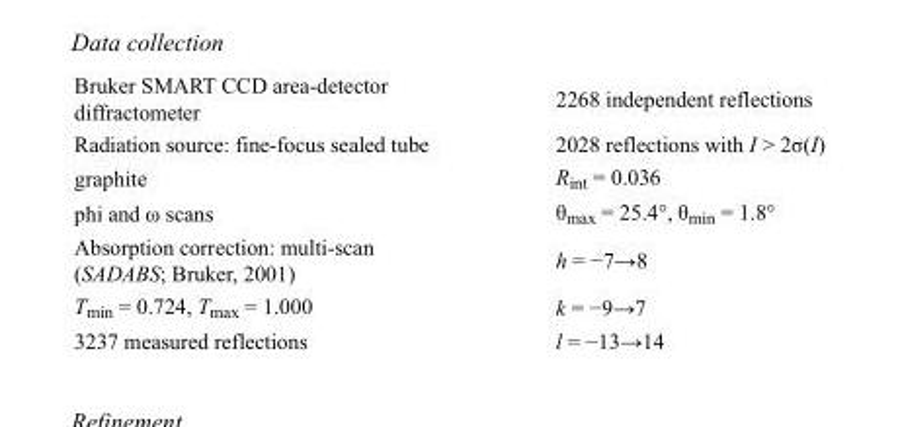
<table><tbody><tr><td>Bruker SMART CCD area-detector diffractometer</td><td>2268 independent reflections</td></tr><tr><td>Radiation source: fine-focus sealed tube</td><td>2028 reflections with I &gt; 2σ(I)</td></tr><tr><td>graphite</td><td>R<sub>int</sub> = 0.036</td></tr><tr><td>phi and ω scans</td><td>θ<sub>max</sub> = 25.4°, θ<sub>min</sub> = 1.8°</td></tr><tr><td>Absorption correction: multi-scan (SADABS; Bruker, 2001)</td><td>h = −7→8</td></tr><tr><td>T<sub>min</sub> = 0.724, T<sub>max</sub> = 1.000</td><td>k = −9→7</td></tr><tr><td>3237 measured reflections</td><td>l = −13→14</td></tr></tbody></table>